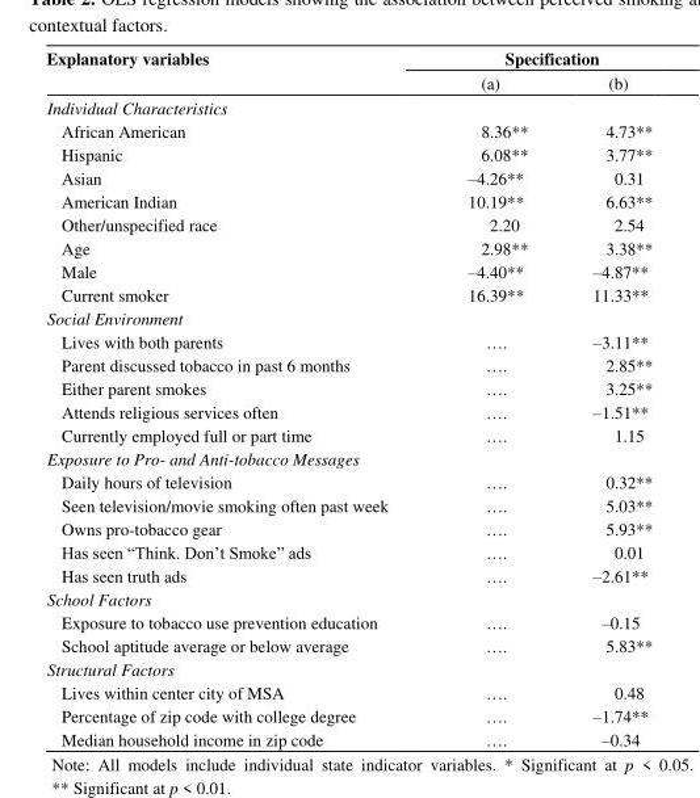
<table><thead><tr><td rowspan="2">Explanatory variables</td><td colspan="2">Specification</td></tr><tr><td>(a)</td><td>(b)</td></tr></thead><tbody><tr><td colspan="3">Individual Characteristics</td></tr><tr><td>African American</td><td>8.36**</td><td>4.73**</td></tr><tr><td>Hispanic</td><td>6.08**</td><td>3.77**</td></tr><tr><td>Asian</td><td>–4.26**</td><td>0.31</td></tr><tr><td>American Indian</td><td>10.19**</td><td>6.63**</td></tr><tr><td>Other/unspecified race</td><td>2.20</td><td>2.54</td></tr><tr><td>Age</td><td>2.98**</td><td>3.38**</td></tr><tr><td>Male</td><td>–4.40**</td><td>–4.87**</td></tr><tr><td>Current smoker</td><td>16.39**</td><td>11.33**</td></tr><tr><td colspan="3">Social Environment</td></tr><tr><td>Lives with both parents</td><td>….</td><td>–3.11**</td></tr><tr><td>Parent discussed tobacco in past 6 months</td><td>….</td><td>2.85**</td></tr><tr><td>Either parent smokes</td><td>….</td><td>3.25**</td></tr><tr><td>Attends religious services often</td><td>….</td><td>–1.51**</td></tr><tr><td>Currently employed full or part time</td><td>….</td><td>1.15</td></tr><tr><td colspan="3">Exposure to Pro- and Anti-tobacco Messages</td></tr><tr><td>Daily hours of television</td><td>….</td><td>0.32**</td></tr><tr><td>Seen television/movie smoking often past week</td><td>….</td><td>5.03**</td></tr><tr><td>Owns pro-tobacco gear</td><td>….</td><td>5.93**</td></tr><tr><td>Has seen ―Think. Don’t Smoke‖ ads</td><td>….</td><td>0.01</td></tr><tr><td>Has seen truth ads</td><td>….</td><td>–2.61**</td></tr><tr><td colspan="3">School Factors</td></tr><tr><td>Exposure to tobacco use prevention education</td><td>….</td><td>–0.15</td></tr><tr><td>School aptitude average or below average</td><td>….</td><td>5.83**</td></tr><tr><td colspan="3">Structural Factors</td></tr><tr><td>Lives within center city of MSA</td><td>….</td><td>0.48</td></tr><tr><td>Percentage of zip code with college degree</td><td>….</td><td>–1.74**</td></tr><tr><td>Median household income in zip code</td><td>….</td><td>–0.34</td></tr></tbody></table>